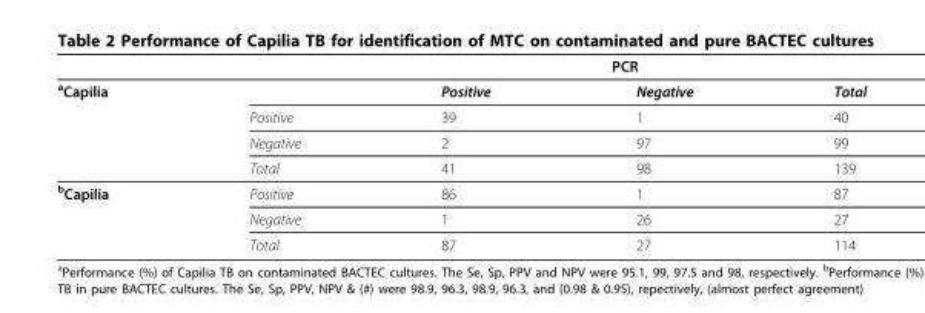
<table><thead><tr><td rowspan="2"><sup>a</sup>Capilia</td><td colspan="4">PCR</td></tr><tr><td></td><td>Positive</td><td>Negative</td><td>Total</td></tr></thead><tbody><tr><td></td><td>Positive</td><td>39</td><td>1</td><td>40</td></tr><tr><td></td><td>Negative</td><td>2</td><td>97</td><td>99</td></tr><tr><td></td><td>Total</td><td>41</td><td>98</td><td>139</td></tr><tr><td rowspan="3"><sup>b</sup>Capilia</td><td>Positive</td><td>86</td><td>1</td><td>87</td></tr><tr><td>Negative</td><td>1</td><td>26</td><td>27</td></tr><tr><td>Total</td><td>87</td><td>27</td><td>114</td></tr></tbody></table>